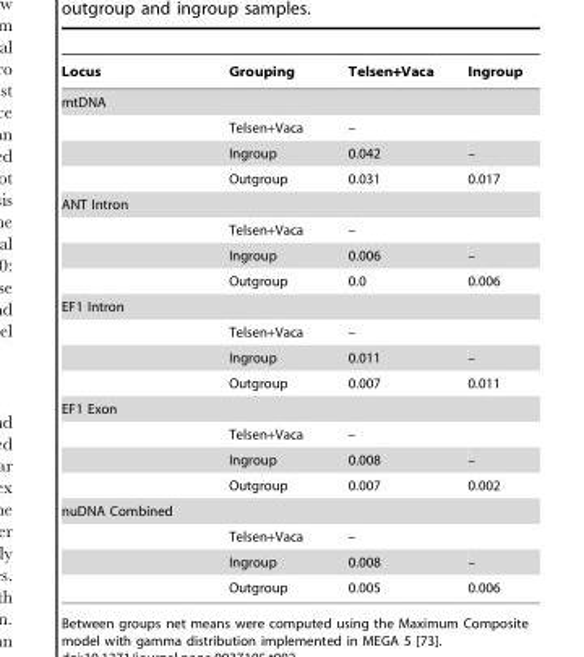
<table><thead><tr><td>Locus</td><td>Grouping</td><td>Telsen+Vaca</td><td>Ingroup</td></tr></thead><tbody><tr><td colspan="4">mtDNA</td></tr><tr><td></td><td>Telsen+Vaca</td><td>–</td><td></td></tr><tr><td></td><td>Ingroup</td><td>0.042</td><td>–</td></tr><tr><td></td><td>Outgroup</td><td>0.031</td><td>0.017</td></tr><tr><td colspan="4">ANT Intron</td></tr><tr><td></td><td>Telsen+Vaca</td><td>–</td><td></td></tr><tr><td></td><td>Ingroup</td><td>0.006</td><td>–</td></tr><tr><td></td><td>Outgroup</td><td>0.0</td><td>0.006</td></tr><tr><td colspan="4">EF1 Intron</td></tr><tr><td></td><td>Telsen+Vaca</td><td>–</td><td></td></tr><tr><td></td><td>Ingroup</td><td>0.011</td><td>–</td></tr><tr><td></td><td>Outgroup</td><td>0.007</td><td>0.011</td></tr><tr><td colspan="4">EF1 Exon</td></tr><tr><td></td><td>Telsen+Vaca</td><td>–</td><td></td></tr><tr><td></td><td>Ingroup</td><td>0.008</td><td>–</td></tr><tr><td></td><td>Outgroup</td><td>0.007</td><td>0.002</td></tr><tr><td colspan="4">nuDNA Combined</td></tr><tr><td></td><td>Telsen+Vaca</td><td>–</td><td></td></tr><tr><td></td><td>Ingroup</td><td>0.008</td><td>–</td></tr><tr><td></td><td>Outgroup</td><td>0.005</td><td>0.006</td></tr></tbody></table>